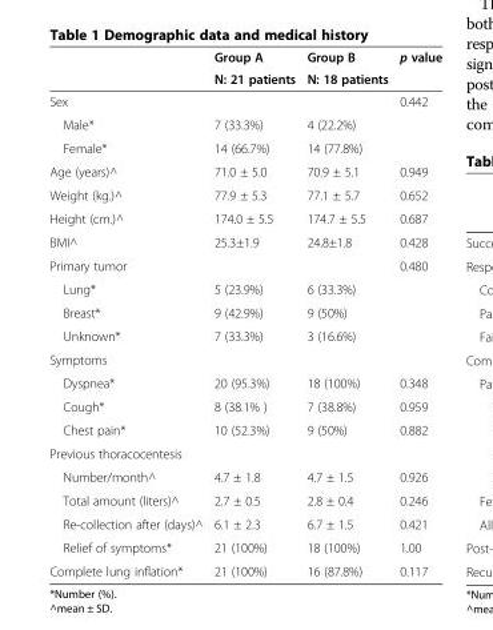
<table><thead><tr><td rowspan="2"></td><td rowspan="2">Group A N: 21 patients</td><td rowspan="2">Group B N: 18 patients</td><td rowspan="2">p value</td></tr><tr></tr></thead><tbody><tr><td>Sex</td><td></td><td></td><td>0.442</td></tr><tr><td>Male*</td><td>7 (33.3%)</td><td>4 (22.2%)</td><td></td></tr><tr><td>Female*</td><td>14 (66.7%)</td><td>14 (77.8%)</td><td></td></tr><tr><td>Age (years)^</td><td>71.0 ± 5.0</td><td>70.9 ± 5.1</td><td>0.949</td></tr><tr><td>Weight (kg.)^</td><td>77.9 ± 5.3</td><td>77.1 ± 5.7</td><td>0.652</td></tr><tr><td>Height (cm.)^</td><td>174.0 ± 5.5</td><td>174.7 ± 5.5</td><td>0.687</td></tr><tr><td>BMI^</td><td>25.3±1.9</td><td>24.8±1.8</td><td>0.428</td></tr><tr><td>Primary tumor</td><td></td><td></td><td>0.480</td></tr><tr><td>Lung*</td><td>5 (23.9%)</td><td>6 (33.3%)</td><td></td></tr><tr><td>Breast*</td><td>9 (42.9%)</td><td>9 (50%)</td><td></td></tr><tr><td>Unknown*</td><td>7 (33.3%)</td><td>3 (16.6%)</td><td></td></tr><tr><td colspan="4">Symptoms</td></tr><tr><td>Dyspnea*</td><td>20 (95.3%)</td><td>18 (100%)</td><td>0.348</td></tr><tr><td>Cough*</td><td>8 (38.1% )</td><td>7 (38.8%)</td><td>0.959</td></tr><tr><td>Chest pain*</td><td>10 (52.3%)</td><td>9 (50%)</td><td>0.882</td></tr><tr><td colspan="4">Previous thoracocentesis</td></tr><tr><td>Number/month^</td><td>4.7 ± 1.8</td><td>4.7 ± 1.5</td><td>0.926</td></tr><tr><td>Total amount (liters)^</td><td>2.7 ± 0.5</td><td>2.8 ± 0.4</td><td>0.246</td></tr><tr><td>Re-collection after (days)^</td><td>6.1 ± 2.3</td><td>6.7 ± 1.5</td><td>0.421</td></tr><tr><td>Relief of symptoms*</td><td>21 (100%)</td><td>18 (100%)</td><td>1.00</td></tr><tr><td>Complete lung inflation*</td><td>21 (100%)</td><td>16 (87.8%)</td><td>0.117</td></tr></tbody></table>